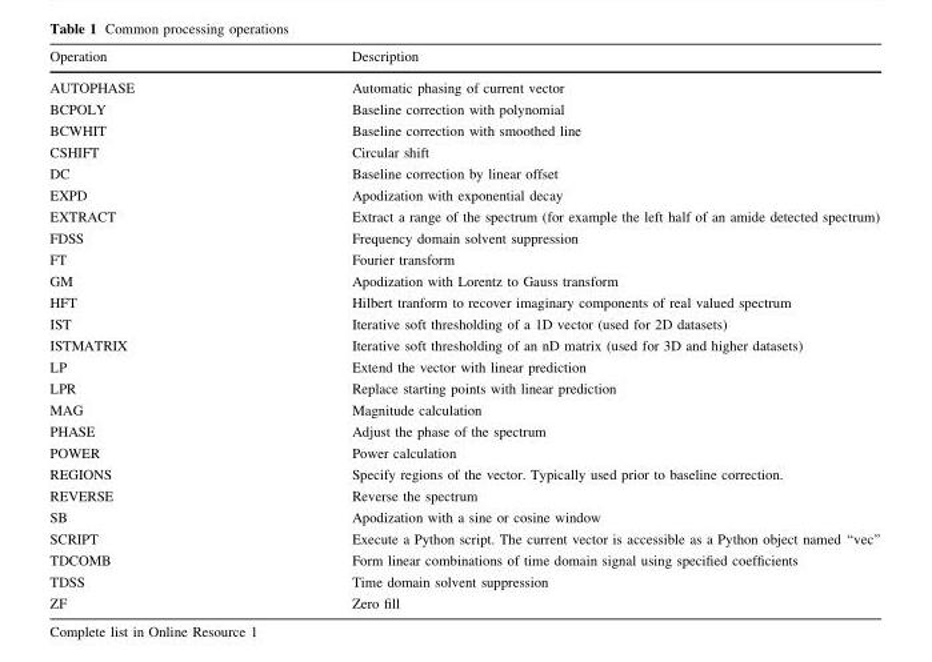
<table><thead><tr><td>Operation</td><td>Description</td></tr></thead><tbody><tr><td>AUTOPHASE</td><td>Automatic phasing of current vector</td></tr><tr><td>BCPOLY</td><td>Baseline correction with polynomial</td></tr><tr><td>BCWHIT</td><td>Baseline correction with smoothed line</td></tr><tr><td>CSHIFT</td><td>Circular shift</td></tr><tr><td>DC</td><td>Baseline correction by linear offset</td></tr><tr><td>EXPD</td><td>Apodization with exponential decay</td></tr><tr><td>EXTRACT</td><td>Extract a range of the spectrum (for example the left half of an amide detected spectrum)</td></tr><tr><td>FDSS</td><td>Frequency domain solvent suppression</td></tr><tr><td>FT</td><td>Fourier transform</td></tr><tr><td>GM</td><td>Apodization with Lorentz to Gauss transform</td></tr><tr><td>HFT</td><td>Hilbert tranform to recover imaginary components of real valued spectrum</td></tr><tr><td>IST</td><td>Iterative soft thresholding of a 1D vector (used for 2D datasets)</td></tr><tr><td>ISTMATRIX</td><td>Iterative soft thresholding of an nD matrix (used for 3D and higher datasets)</td></tr><tr><td>LP</td><td>Extend the vector with linear prediction</td></tr><tr><td>LPR</td><td>Replace starting points with linear prediction</td></tr><tr><td>MAG</td><td>Magnitude calculation</td></tr><tr><td>PHASE</td><td>Adjust the phase of the spectrum</td></tr><tr><td>POWER</td><td>Power calculation</td></tr><tr><td>REGIONS</td><td>Specify regions of the vector. Typically used prior to baseline correction.</td></tr><tr><td>REVERSE</td><td>Reverse the spectrum</td></tr><tr><td>SB</td><td>Apodization with a sine or cosine window</td></tr><tr><td>SCRIPT</td><td>Execute a Python script. The current vector is accessible as a Python object named ‘‘vec’’</td></tr><tr><td>TDCOMB</td><td>Form linear combinations of time domain signal using specified coefficients</td></tr><tr><td>TDSS</td><td>Time domain solvent suppression</td></tr><tr><td>ZF</td><td>Zero fill</td></tr></tbody></table>